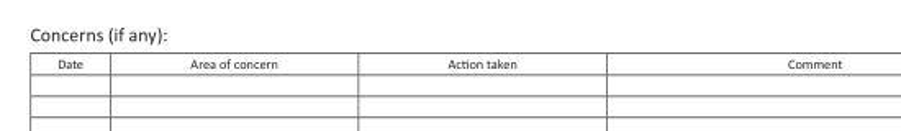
<table><thead><tr><td>Date</td><td>Area of concern</td><td>Action taken</td><td>Comment</td></tr></thead><tbody></tbody></table>